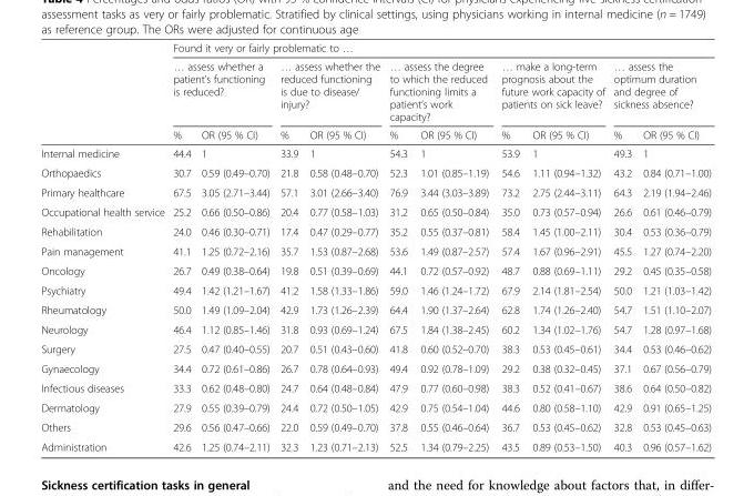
<table><thead><tr><td rowspan="3"></td><td colspan="10">Found it very or fairly problematic to …</td></tr><tr><td colspan="2">… assess whether a patient’s functioning is reduced?</td><td colspan="2">… assess whether the reduced functioning is due to disease/ injury?</td><td colspan="2">… assess the degree to which the reduced functioning limits a patient’s work capacity?</td><td colspan="2">… make a long-term prognosis about the future work capacity of patients on sick leave?</td><td colspan="2">… assess the optimum duration and degree of sickness absence?</td></tr><tr><td>%</td><td>OR (95 % CI)</td><td>%</td><td>OR (95 % CI)</td><td>%</td><td>OR (95 % CI)</td><td>%</td><td>OR (95 % CI)</td><td>%</td><td>OR (95 % CI)</td></tr></thead><tbody><tr><td>Internal medicine</td><td>44.4</td><td>1</td><td>33.9</td><td>1</td><td>54.3</td><td>1</td><td>53.9</td><td>1</td><td>49.3</td><td>1</td></tr><tr><td>Orthopaedics</td><td>30.7</td><td>0.59 (0.49–0.70)</td><td>21.8</td><td>0.58 (0.48–0.70)</td><td>52.3</td><td>1.01 (0.85–1.19)</td><td>54.6</td><td>1.11 (0.94–1.32)</td><td>43.2</td><td>0.84 (0.71–1.00)</td></tr><tr><td>Primary healthcare</td><td>67.5</td><td>3.05 (2.71–3.44)</td><td>57.1</td><td>3.01 (2.66–3.40)</td><td>76.9</td><td>3.44 (3.03–3.89)</td><td>73.2</td><td>2.75 (2.44–3.11)</td><td>64.3</td><td>2.19 (1.94–2.46)</td></tr><tr><td>Occupational health service</td><td>25.2</td><td>0.66 (0.50–0.86)</td><td>20.4</td><td>0.77 (0.58–1.03)</td><td>31.2</td><td>0.65 (0.50–0.84)</td><td>35.0</td><td>0.73 (0.57–0.94)</td><td>26.6</td><td>0.61 (0.46–0.79)</td></tr><tr><td>Rehabilitation</td><td>24.0</td><td>0.46 (0.30–0.71)</td><td>17.4</td><td>0.47 (0.29–0.77)</td><td>35.2</td><td>0.55 (0.37–0.81)</td><td>58.4</td><td>1.45 (1.00–2.11)</td><td>30.4</td><td>0.53 (0.36–0.79)</td></tr><tr><td>Pain management</td><td>41.1</td><td>1.25 (0.72–2.16)</td><td>35.7</td><td>1.53 (0.87–2.68)</td><td>53.6</td><td>1.49 (0.87–2.57)</td><td>57.4</td><td>1.67 (0.96–2.91)</td><td>45.5</td><td>1.27 (0.74–2.20)</td></tr><tr><td>Oncology</td><td>26.7</td><td>0.49 (0.38–0.64)</td><td>19.8</td><td>0.51 (0.39–0.69)</td><td>44.1</td><td>0.72 (0.57–0.92)</td><td>48.7</td><td>0.88 (0.69–1.11)</td><td>29.2</td><td>0.45 (0.35–0.58)</td></tr><tr><td>Psychiatry</td><td>49.4</td><td>1.42 (1.21–1.67)</td><td>41.2</td><td>1.58 (1.33–1.86)</td><td>59.0</td><td>1.46 (1.24–1.72)</td><td>67.9</td><td>2.14 (1.81–2.54)</td><td>50.0</td><td>1.21 (1.03–1.42)</td></tr><tr><td>Rheumatology</td><td>50.0</td><td>1.49 (1.09–2.04)</td><td>42.9</td><td>1.73 (1.26–2.39)</td><td>64.4</td><td>1.90 (1.37–2.64)</td><td>62.8</td><td>1.74 (1.26–2.40)</td><td>54.7</td><td>1.51 (1.10–2.07)</td></tr><tr><td>Neurology</td><td>46.4</td><td>1.12 (0.85–1.46)</td><td>31.8</td><td>0.93 (0.69–1.24)</td><td>67.5</td><td>1.84 (1.38–2.45)</td><td>60.2</td><td>1.34 (1.02–1.76)</td><td>54.7</td><td>1.28 (0.97–1.68)</td></tr><tr><td>Surgery</td><td>27.5</td><td>0.47 (0.40–0.55)</td><td>20.7</td><td>0.51 (0.43–0.60)</td><td>41.8</td><td>0.60 (0.52–0.70)</td><td>38.3</td><td>0.53 (0.45–0.61)</td><td>34.4</td><td>0.53 (0.46–0.62)</td></tr><tr><td>Gynaecology</td><td>34.4</td><td>0.72 (0.61–0.86)</td><td>26.7</td><td>0.78 (0.64–0.93)</td><td>49.4</td><td>0.92 (0.78–1.09)</td><td>29.2</td><td>0.38 (0.32–0.45)</td><td>37.1</td><td>0.67 (0.56–0.79)</td></tr><tr><td>Infectious diseases</td><td>33.3</td><td>0.62 (0.48–0.80)</td><td>24.7</td><td>0.64 (0.48–0.84)</td><td>47.9</td><td>0.77 (0.60–0.98)</td><td>38.3</td><td>0.52 (0.41–0.67)</td><td>38.6</td><td>0.64 (0.50–0.82)</td></tr><tr><td>Dermatology</td><td>27.9</td><td>0.55 (0.39–0.79)</td><td>24.4</td><td>0.72 (0.50–1.05)</td><td>42.9</td><td>0.75 (0.54–1.04)</td><td>44.6</td><td>0.80 (0.58–1.10)</td><td>42.9</td><td>0.91 (0.65–1.25)</td></tr><tr><td>Others</td><td>29.6</td><td>0.56 (0.47–0.66)</td><td>22.0</td><td>0.59 (0.49–0.70)</td><td>37.8</td><td>0.55 (0.46–0.64)</td><td>36.7</td><td>0.53 (0.45–0.62)</td><td>32.8</td><td>0.53 (0.45–0.63)</td></tr><tr><td>Administration</td><td>42.6</td><td>1.25 (0.74–2.11)</td><td>32.3</td><td>1.23 (0.71–2.13)</td><td>52.5</td><td>1.34 (0.79–2.25)</td><td>43.5</td><td>0.89 (0.53–1.50)</td><td>40.3</td><td>0.96 (0.57–1.62)</td></tr></tbody></table>